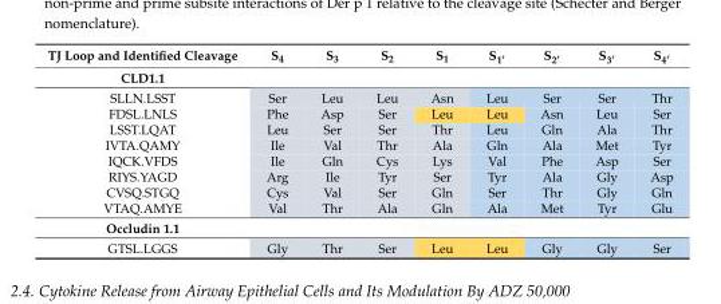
<table><thead><tr><td>TJ Loop and Identified Cleavage</td><td>S4</td><td>S3</td><td>S2</td><td>S1</td><td>S1′</td><td>S2′</td><td>S3′</td><td>S4′</td></tr></thead><tbody><tr><td colspan="9">CLD1.1</td></tr><tr><td>SLLN.LSST</td><td>Ser</td><td>Leu</td><td>Leu</td><td>Asn</td><td>Leu</td><td>Ser</td><td>Ser</td><td>Thr</td></tr><tr><td>FDSL.LNLS</td><td>Phe</td><td>Asp</td><td>Ser</td><td>Leu</td><td>Leu</td><td>Asn</td><td>Leu</td><td>Ser</td></tr><tr><td>LSST.LQAT</td><td>Leu</td><td>Ser</td><td>Ser</td><td>Thr</td><td>Leu</td><td>Gln</td><td>Ala</td><td>Thr</td></tr><tr><td>IVTA.QAMY</td><td>Ile</td><td>Val</td><td>Thr</td><td>Ala</td><td>Gln</td><td>Ala</td><td>Met</td><td>Tyr</td></tr><tr><td>IQCK.VFDS</td><td>Ile</td><td>Gln</td><td>Cys</td><td>Lys</td><td>Val</td><td>Phe</td><td>Asp</td><td>Ser</td></tr><tr><td>RIYS.YAGD</td><td>Arg</td><td>Ile</td><td>Tyr</td><td>Ser</td><td>Tyr</td><td>Ala</td><td>Gly</td><td>Asp</td></tr><tr><td>CVSQ.STGQ</td><td>Cys</td><td>Val</td><td>Ser</td><td>Gln</td><td>Ser</td><td>Thr</td><td>Gly</td><td>Gln</td></tr><tr><td>VTAQ.AMYE</td><td>Val</td><td>Thr</td><td>Ala</td><td>Gln</td><td>Ala</td><td>Met</td><td>Tyr</td><td>Glu</td></tr><tr><td colspan="9">Occludin 1.1</td></tr><tr><td>GTSL.LGGS</td><td>Gly</td><td>Thr</td><td>Ser</td><td>Leu</td><td>Leu</td><td>Gly</td><td>Gly</td><td>Ser</td></tr></tbody></table>